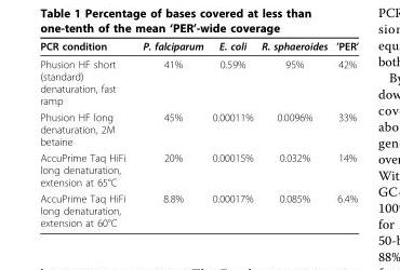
<table><thead><tr><td>PCR condition</td><td>P. falciparum</td><td>E. coli</td><td>R. sphaeroides</td><td>’PER’</td></tr></thead><tbody><tr><td>Phusion HF short (standard) denaturation, fast ramp</td><td>41%</td><td>0.59%</td><td>95%</td><td>42%</td></tr><tr><td>Phusion HF long denaturation, 2M betaine</td><td>45%</td><td>0.00011%</td><td>0.0096%</td><td>33%</td></tr><tr><td>AccuPrime Taq HiFi long denaturation, extension at 65°C</td><td>20%</td><td>0.00015%</td><td>0.032%</td><td>14%</td></tr><tr><td>AccuPrime Taq HiFi long denaturation, extension at 60°C</td><td>8.8%</td><td>0.00017%</td><td>0.085%</td><td>6.4%</td></tr></tbody></table>